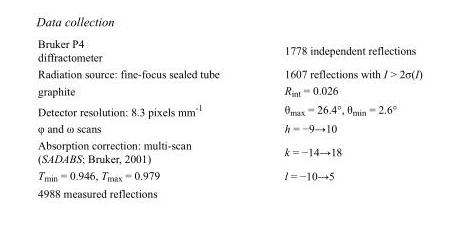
<table><tbody><tr><td>Bruker P4 diffractometer</td><td>1778 independent reflections</td></tr><tr><td>Radiation source: fine-focus sealed tube</td><td>1607 reflections with I &gt; 2σ(I)</td></tr><tr><td>graphite</td><td>R<sub>int</sub> = 0.026</td></tr><tr><td>Detector resolution: 8.3 pixels mm<sup>-1</sup></td><td>θ<sub>max</sub> = 26.4°, θ<sub>min</sub> = 2.6°</td></tr><tr><td>φ and ω scans</td><td>h = −9→10</td></tr><tr><td>Absorption correction: multi-scan (SADABS; Bruker, 2001)</td><td>k = −14→18</td></tr><tr><td>T<sub>min</sub> = 0.946, T<sub>max</sub> = 0.979</td><td>l = −10→5</td></tr><tr><td>4988 measured reflections</td><td></td></tr></tbody></table>